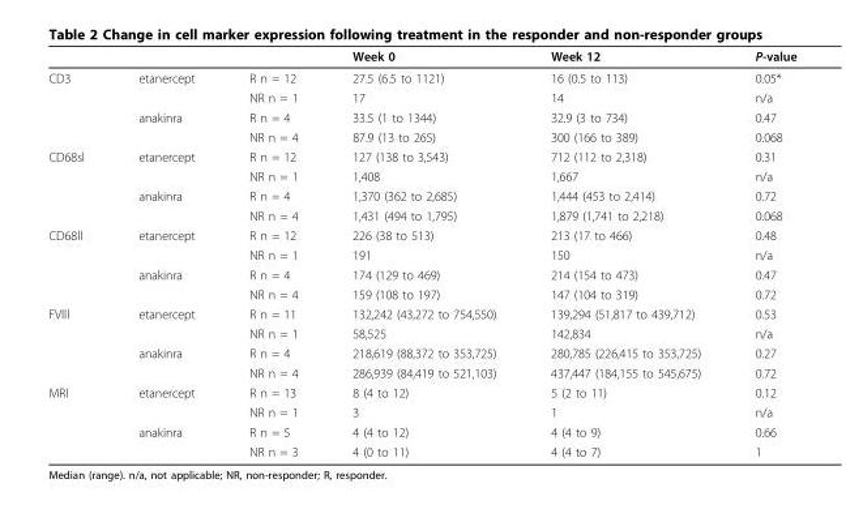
<table><thead><tr><td></td><td></td><td></td><td>Week 0</td><td>Week 12</td><td>P-value</td></tr></thead><tbody><tr><td rowspan="4">CD3</td><td>etanercept</td><td>R n = 12</td><td>27.5 (6.5 to 1121)</td><td>16 (0.5 to 113)</td><td>0.05*</td></tr><tr><td></td><td>NR n = 1</td><td>17</td><td>14</td><td>n/a</td></tr><tr><td>anakinra</td><td>R n = 4</td><td>33.5 (1 to 1344)</td><td>32.9 (3 to 734)</td><td>0.47</td></tr><tr><td></td><td>NR n = 4</td><td>87.9 (13 to 265)</td><td>300 (166 to 389)</td><td>0.068</td></tr><tr><td rowspan="4">CD68sl</td><td>etanercept</td><td>R n = 12</td><td>127 (138 to 3,543)</td><td>712 (112 to 2,318)</td><td>0.31</td></tr><tr><td></td><td>NR n = 1</td><td>1,408</td><td>1,667</td><td>n/a</td></tr><tr><td>anakinra</td><td>R n = 4</td><td>1,370 (362 to 2,685)</td><td>1,444 (453 to 2,414)</td><td>0.72</td></tr><tr><td></td><td>NR n = 4</td><td>1,431 (494 to 1,795)</td><td>1,879 (1,741 to 2,218)</td><td>0.068</td></tr><tr><td rowspan="4">CD68ll</td><td>etanercept</td><td>R n = 12</td><td>226 (38 to 513)</td><td>213 (17 to 466)</td><td>0.48</td></tr><tr><td></td><td>NR n = 1</td><td>191</td><td>150</td><td>n/a</td></tr><tr><td>anakinra</td><td>R n = 4</td><td>174 (129 to 469)</td><td>214 (154 to 473)</td><td>0.47</td></tr><tr><td></td><td>NR n = 4</td><td>159 (108 to 197)</td><td>147 (104 to 319)</td><td>0.72</td></tr><tr><td rowspan="4">FVlll</td><td>etanercept</td><td>R n = 11</td><td>132,242 (43,272 to 754,550)</td><td>139,294 (51,817 to 439,712)</td><td>0.53</td></tr><tr><td></td><td>NR n = 1</td><td>58,525</td><td>142,834</td><td>n/a</td></tr><tr><td>anakinra</td><td>R n = 4</td><td>218,619 (88,372 to 353,725)</td><td>280,785 (226,415 to 353,725)</td><td>0.27</td></tr><tr><td></td><td>NR n = 4</td><td>286,939 (84,419 to 521,103)</td><td>437,447 (184,155 to 545,675)</td><td>0.72</td></tr><tr><td rowspan="4">MRI</td><td>etanercept</td><td>R n = 13</td><td>8 (4 to 12)</td><td>5 (2 to 11)</td><td>0.12</td></tr><tr><td></td><td>NR n = 1</td><td>3</td><td>1</td><td>n/a</td></tr><tr><td>anakinra</td><td>R n = 5</td><td>4 (4 to 12)</td><td>4 (4 to 9)</td><td>0.66</td></tr><tr><td></td><td>NR n = 3</td><td>4 (0 to 11)</td><td>4 (4 to 7)</td><td>1</td></tr></tbody></table>